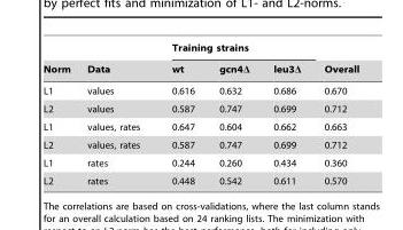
<table><thead><tr><td rowspan="2">Norm</td><td rowspan="2">Data</td><td colspan="3">Training strains</td><td rowspan="2">Overall</td></tr><tr><td>wt</td><td>gcn4Δ</td><td>leu3Δ</td></tr></thead><tbody><tr><td>L1</td><td>values</td><td>0.616</td><td>0.632</td><td>0.686</td><td>0.670</td></tr><tr><td>L2</td><td>values</td><td>0.587</td><td>0.747</td><td>0.699</td><td>0.712</td></tr><tr><td>L1</td><td>values, rates</td><td>0.647</td><td>0.604</td><td>0.662</td><td>0.663</td></tr><tr><td>L2</td><td>values, rates</td><td>0.587</td><td>0.747</td><td>0.699</td><td>0.712</td></tr><tr><td>L1</td><td>rates</td><td>0.244</td><td>0.260</td><td>0.434</td><td>0.360</td></tr><tr><td>L2</td><td>rates</td><td>0.448</td><td>0.542</td><td>0.611</td><td>0.570</td></tr></tbody></table>